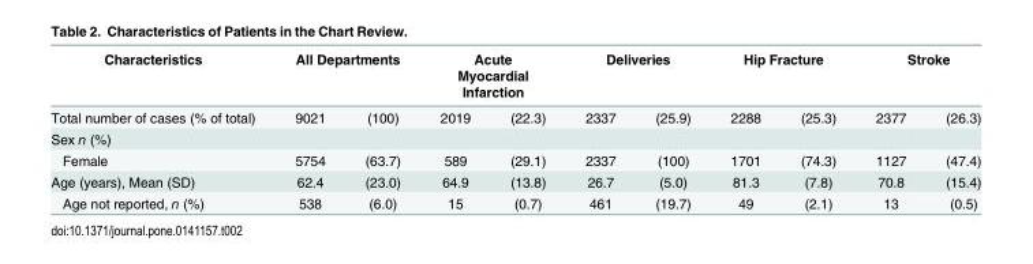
<table><thead><tr><td rowspan="2">Characteristics Total number of cases (% of total)</td><td colspan="2">All Departments</td><td colspan="2">Acute Myocardial Infarction</td><td colspan="2">Deliveries</td><td colspan="2">Hip Fracture</td><td colspan="2">Stroke</td></tr><tr><td>9021</td><td>(100)</td><td>2019</td><td>(22.3)</td><td>2337</td><td>(25.9)</td><td>2288</td><td>(25.3)</td><td>2377</td><td>(26.3)</td></tr></thead><tbody><tr><td colspan="11">Sex n (%)</td></tr><tr><td>Female</td><td>5754</td><td>(63.7)</td><td>589</td><td>(29.1)</td><td>2337</td><td>(100)</td><td>1701</td><td>(74.3)</td><td>1127</td><td>(47.4)</td></tr><tr><td>Age (years), Mean (SD)</td><td>62.4</td><td>(23.0)</td><td>64.9</td><td>(13.8)</td><td>26.7</td><td>(5.0)</td><td>81.3</td><td>(7.8)</td><td>70.8</td><td>(15.4)</td></tr><tr><td>Age not reported, n (%)</td><td>538</td><td>(6.0)</td><td>15</td><td>(0.7)</td><td>461</td><td>(19.7)</td><td>49</td><td>(2.1)</td><td>13</td><td>(0.5)</td></tr></tbody></table>